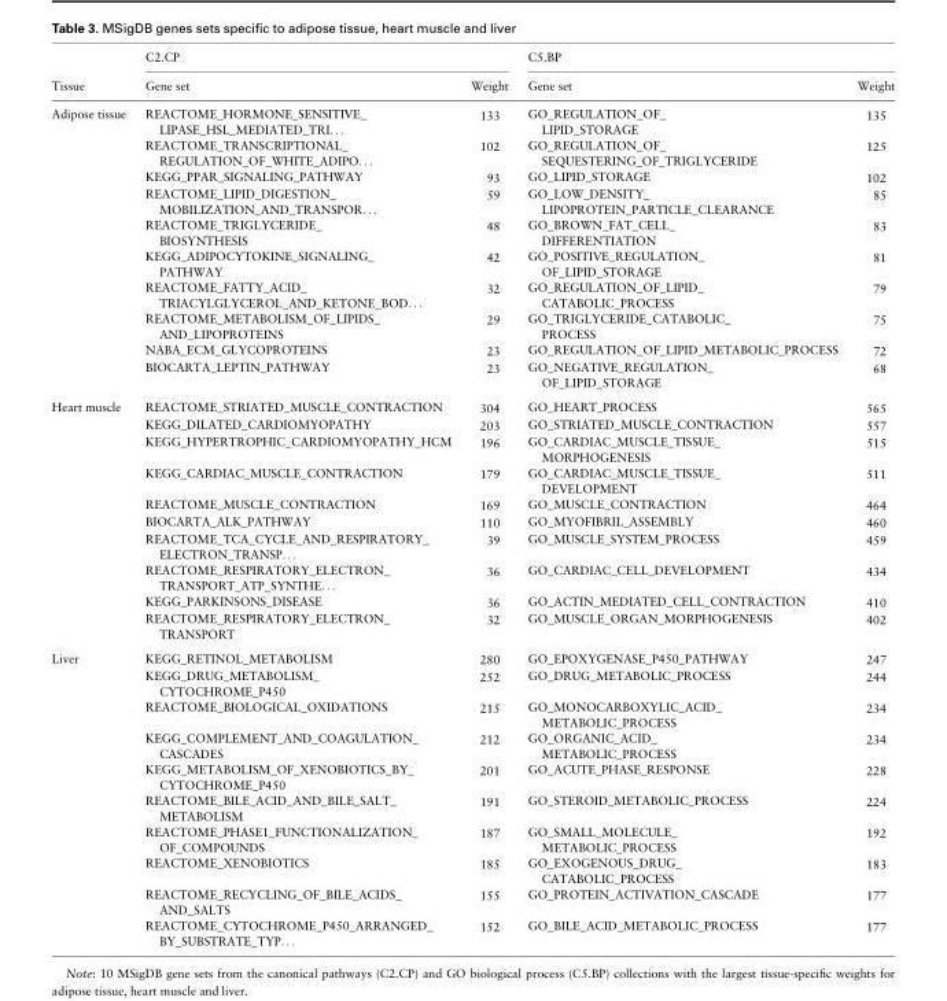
<table><thead><tr><td rowspan="2">Tissue</td><td colspan="2">C2.CP</td><td colspan="2">C5.BP</td></tr><tr><td>Gene set</td><td>Weight</td><td>Gene set</td><td>Weight</td></tr></thead><tbody><tr><td rowspan="10">Adipose tissue</td><td>REACTOME_HORMONE_SENSITIVE_ LIPASE_HSL_MEDIATED_TRI. . .</td><td>133</td><td>GO_REGULATION_OF_ LIPID_STORAGE</td><td>135</td></tr><tr><td>REACTOME_TRANSCRIPTIONAL_ REGULATION_OF_WHITE_ADIPO. . .</td><td>102</td><td>GO_REGULATION_OF_ SEQUESTERING_OF_TRIGLYCERIDE</td><td>125</td></tr><tr><td>KEGG_PPAR_SIGNALING_PATHWAY</td><td>93</td><td>GO_LIPID_STORAGE</td><td>102</td></tr><tr><td>REACTOME_LIPID_DIGESTION_ MOBILIZATION_AND_TRANSPOR. . .</td><td>59</td><td>GO_LOW_DENSITY_ LIPOPROTEIN_PARTICLE_CLEARANCE</td><td>85</td></tr><tr><td>REACTOME_TRIGLYCERIDE_ BIOSYNTHESIS</td><td>48</td><td>GO_BROWN_FAT_CELL_ DIFFERENTIATION</td><td>83</td></tr><tr><td>KEGG_ADIPOCYTOKINE_SIGNALING_ PATHWAY</td><td>42</td><td>GO_POSITIVE_REGULATION_ OF_LIPID_STORAGE</td><td>81</td></tr><tr><td>REACTOME_FATTY_ACID_ TRIACYLGLYCEROL_AND_KETONE_BOD. . .</td><td>32</td><td>GO_REGULATION_OF_LIPID_ CATABOLIC_PROCESS</td><td>79</td></tr><tr><td>REACTOME_METABOLISM_OF_LIPIDS_ AND_LIPOPROTEINS</td><td>29</td><td>GO_TRIGLYCERIDE_CATABOLIC_ PROCESS</td><td>75</td></tr><tr><td>NABA_ECM_GLYCOPROTEINS</td><td>23</td><td>GO_REGULATION_OF_LIPID_METABOLIC_PROCESS</td><td>72</td></tr><tr><td>BIOCARTA_LEPTIN_PATHWAY</td><td>23</td><td>GO_NEGATIVE_REGULATION_ OF_LIPID_STORAGE</td><td>68</td></tr><tr><td rowspan="10">Heart muscle</td><td>REACTOME_STRIATED_MUSCLE_CONTRACTION</td><td>304</td><td>GO_HEART_PROCESS</td><td>565</td></tr><tr><td>KEGG_DILATED_CARDIOMYOPATHY</td><td>203</td><td>GO_STRIATED_MUSCLE_CONTRACTION</td><td>557</td></tr><tr><td>KEGG_HYPERTROPHIC_CARDIOMYOPATHY_HCM</td><td>196</td><td>GO_CARDIAC_MUSCLE_TISSUE_ MORPHOGENESIS</td><td>515</td></tr><tr><td>KEGG_CARDIAC_MUSCLE_CONTRACTION</td><td>179</td><td>GO_CARDIAC_MUSCLE_TISSUE_ DEVELOPMENT</td><td>511</td></tr><tr><td>REACTOME_MUSCLE_CONTRACTION</td><td>169</td><td>GO_MUSCLE_CONTRACTION</td><td>464</td></tr><tr><td>BIOCARTA_ALK_PATHWAY</td><td>110</td><td>GO_MYOFIBRIL_ASSEMBLY</td><td>460</td></tr><tr><td>REACTOME_TCA_CYCLE_AND_RESPIRATORY_ ELECTRON_TRANSP. . .</td><td>39</td><td>GO_MUSCLE_SYSTEM_PROCESS</td><td>459</td></tr><tr><td>REACTOME_RESPIRATORY_ELECTRON_ TRANSPORT_ATP_SYNTHE. . .</td><td>36</td><td>GO_CARDIAC_CELL_DEVELOPMENT</td><td>434</td></tr><tr><td>KEGG_PARKINSONS_DISEASE</td><td>36</td><td>GO_ACTIN_MEDIATED_CELL_CONTRACTION</td><td>410</td></tr><tr><td>REACTOME_RESPIRATORY_ELECTRON_ TRANSPORT</td><td>32</td><td>GO_MUSCLE_ORGAN_MORPHOGENESIS</td><td>402</td></tr><tr><td rowspan="10">Liver</td><td>KEGG_RETINOL_METABOLISM</td><td>280</td><td>GO_EPOXYGENASE_P450_PATHWAY</td><td>247</td></tr><tr><td>KEGG_DRUG_METABOLISM_ CYTOCHROME_P450</td><td>252</td><td>GO_DRUG_METABOLIC_PROCESS</td><td>244</td></tr><tr><td>REACTOME_BIOLOGICAL_OXIDATIONS</td><td>215</td><td>GO_MONOCARBOXYLIC_ACID_ METABOLIC_PROCESS</td><td>234</td></tr><tr><td>KEGG_COMPLEMENT_AND_COAGULATION_ CASCADES</td><td>212</td><td>GO_ORGANIC_ACID_ METABOLIC_PROCESS</td><td>234</td></tr><tr><td>KEGG_METABOLISM_OF_XENOBIOTICS_BY_ CYTOCHROME_P450</td><td>201</td><td>GO_ACUTE_PHASE_RESPONSE</td><td>228</td></tr><tr><td>REACTOME_BILE_ACID_AND_BILE_SALT_ METABOLISM</td><td>191</td><td>GO_STEROID_METABOLIC_PROCESS</td><td>224</td></tr><tr><td>REACTOME_PHASE1_FUNCTIONALIZATION_ OF_COMPOUNDS</td><td>187</td><td>GO_SMALL_MOLECULE_ METABOLIC_PROCESS</td><td>192</td></tr><tr><td>REACTOME_XENOBIOTICS</td><td>185</td><td>GO_EXOGENOUS_DRUG_ CATABOLIC_PROCESS</td><td>183</td></tr><tr><td>REACTOME_RECYCLING_OF_BILE_ACIDS_ AND_SALTS</td><td>155</td><td>GO_PROTEIN_ACTIVATION_CASCADE</td><td>177</td></tr><tr><td>REACTOME_CYTOCHROME_P450_ARRANGED_ BY_SUBSTRATE_TYP. . .</td><td>152</td><td>GO_BILE_ACID_METABOLIC_PROCESS</td><td>177</td></tr></tbody></table>